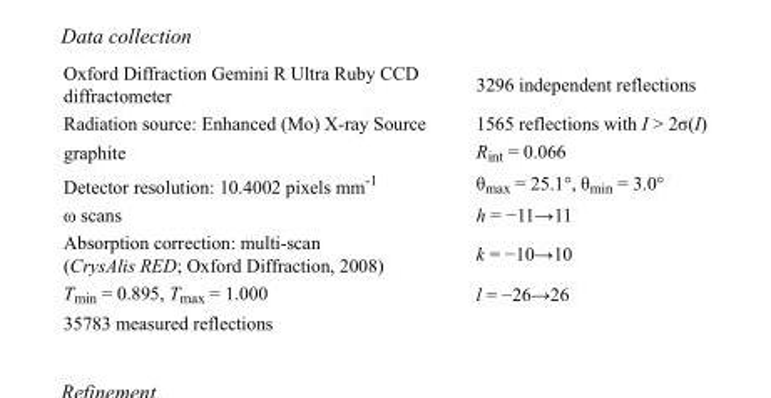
<table><tbody><tr><td>Oxford Diffraction Gemini R Ultra Ruby CCD diffractometer</td><td>3296 independent reflections</td></tr><tr><td>Radiation source: Enhanced (Mo) X-ray Source</td><td>1565 reflections with I &gt; 2σ(I)</td></tr><tr><td>graphite</td><td>R<sub>int</sub> = 0.066</td></tr><tr><td>Detector resolution: 10.4002 pixels mm<sup>-1</sup></td><td>θ<sub>max</sub> = 25.1°, θ<sub>min</sub> = 3.0°</td></tr><tr><td>ω scans</td><td>h = −11→11</td></tr><tr><td>Absorption correction: multi-scan (CrysAlis RED; Oxford Diffraction, 2008)</td><td>k = −10→10</td></tr><tr><td>T<sub>min</sub> = 0.895, T<sub>max</sub> = 1.000</td><td>l = −26→26</td></tr><tr><td>35783 measured reflections</td><td></td></tr></tbody></table>